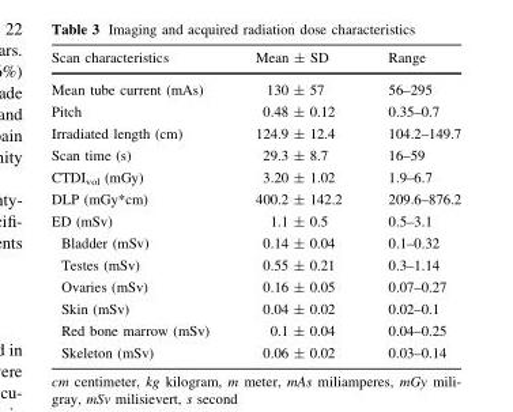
<table><thead><tr><td>Scan characteristics</td><td>Mean ± SD</td><td>Range</td></tr></thead><tbody><tr><td>Mean tube current (mAs)</td><td>130 ± 57</td><td>56–295</td></tr><tr><td>Pitch</td><td>0.48 ± 0.12</td><td>0.35–0.7</td></tr><tr><td>Irradiated length (cm)</td><td>124.9 ± 12.4</td><td>104.2–149.7</td></tr><tr><td>Scan time (s)</td><td>29.3 ± 8.7</td><td>16–59</td></tr><tr><td>CTDI<sub>vol</sub> (mGy)</td><td>3.20 ± 1.02</td><td>1.9–6.7</td></tr><tr><td>DLP (mGy*cm)</td><td>400.2 ± 142.2</td><td>209.6–876.2</td></tr><tr><td>ED (mSv)</td><td>1.1 ± 0.5</td><td>0.5–3.1</td></tr><tr><td>Bladder (mSv)</td><td>0.14 ± 0.04</td><td>0.1–0.32</td></tr><tr><td>Testes (mSv)</td><td>0.55 ± 0.21</td><td>0.3–1.14</td></tr><tr><td>Ovaries (mSv)</td><td>0.16 ± 0.05</td><td>0.07–0.27</td></tr><tr><td>Skin (mSv)</td><td>0.04 ± 0.02</td><td>0.02–0.1</td></tr><tr><td>Red bone marrow (mSv)</td><td>0.1 ± 0.04</td><td>0.04–0.25</td></tr><tr><td>Skeleton (mSv)</td><td>0.06 ± 0.02</td><td>0.03–0.14</td></tr></tbody></table>